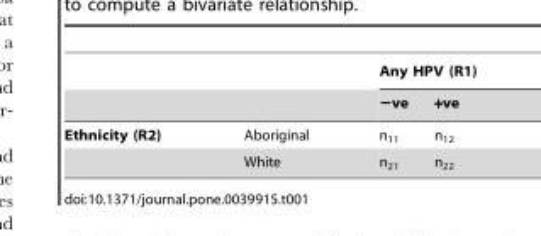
<table><thead><tr><td rowspan="2"></td><td rowspan="2"></td><td colspan="2">Any HPV (R1)</td></tr><tr><td>−ve</td><td>+ve</td></tr></thead><tbody><tr><td rowspan="2">Ethnicity (R2)</td><td>Aboriginal</td><td>n<sub>11</sub></td><td>n<sub>12</sub></td></tr><tr><td>White</td><td>n<sub>21</sub></td><td>n<sub>22</sub></td></tr></tbody></table>